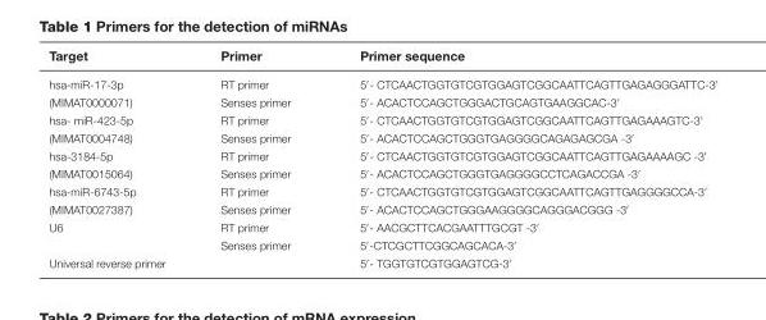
<table><thead><tr><td>Target</td><td>Primer</td><td>Primer sequence</td></tr></thead><tbody><tr><td>hsa-miR-17-3p</td><td>RT primer</td><td>5′- CTCAACTGGTGTCGTGGAGTCGGCAATTCAGTTGAGAGGGATTC-3′</td></tr><tr><td>(MIMAT0000071)</td><td>Senses primer</td><td>5′- ACACTCCAGCTGGGACTGCAGTGAAGGCAC-3′</td></tr><tr><td>hsa- miR-423-5p</td><td>RT primer</td><td>5′- CTCAACTGGTGTCGTGGAGTCGGCAATTCAGTTGAGAAAGTC-3′</td></tr><tr><td>(MIMAT0004748)</td><td>Senses primer</td><td>5′- ACACTCCAGCTGGGTGAGGGGCAGAGAGCGA -3′</td></tr><tr><td>hsa-3184-5p</td><td>RT primer</td><td>5′- CTCAACTGGTGTCGTGGAGTCGGCAATTCAGTTGAGAAAAGC -3′</td></tr><tr><td>(MIMAT0015064)</td><td>Senses primer</td><td>5′- ACACTCCAGCTGGGTGAGGGGCCTCAGACCGA -3′</td></tr><tr><td>hsa-miR-6743-5p</td><td>RT primer</td><td>5′- CTCAACTGGTGTCGTGGAGTCGGCAATTCAGTTGAGGGGCCA-3′</td></tr><tr><td>(MIMAT0027387)</td><td>Senses primer</td><td>5′- ACACTCCAGCTGGGAAGGGGCAGGGACGGG -3′</td></tr><tr><td rowspan="2">U6</td><td>RT primer</td><td>5′- AACGCTTCACGAATTTGCGT -3′</td></tr><tr><td>Senses primer</td><td>5′-CTCGCTTCGGCAGCACA-3′</td></tr><tr><td>Universal reverse primer</td><td></td><td>5′- TGGTGTCGTGGAGTCG-3′</td></tr></tbody></table>